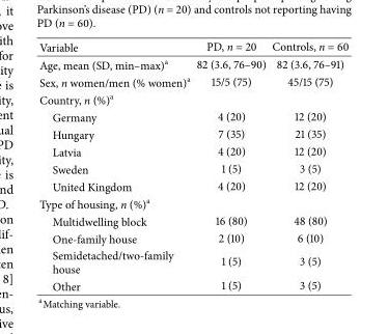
<table><thead><tr><td>Variable</td><td>PD, n = 20</td><td>Controls, n = 60</td></tr></thead><tbody><tr><td>Age, mean (SD, min–max)<sup>a</sup></td><td>82 (3.6, 76–90)</td><td>82 (3.6, 76–91)</td></tr><tr><td>Sex, n women/men (% women)<sup>a</sup></td><td>15/5 (75)</td><td>45/15 (75)</td></tr><tr><td colspan="3">Country, n (%)<sup>a</sup></td></tr><tr><td>Germany</td><td>4 (20)</td><td>12 (20)</td></tr><tr><td>Hungary</td><td>7 (35)</td><td>21 (35)</td></tr><tr><td>Latvia</td><td>4 (20)</td><td>12 (20)</td></tr><tr><td>Sweden</td><td>1 (5)</td><td>3 (5)</td></tr><tr><td>United Kingdom</td><td>4 (20)</td><td>12 (20)</td></tr><tr><td colspan="3">Type of housing, n (%)<sup>a</sup></td></tr><tr><td>Multidwelling block</td><td>16 (80)</td><td>48 (80)</td></tr><tr><td>One-family house</td><td>2 (10)</td><td>6 (10)</td></tr><tr><td>Semidetached/two-family house</td><td>1 (5)</td><td>3 (5)</td></tr><tr><td>Other</td><td>1 (5)</td><td>3 (5)</td></tr></tbody></table>